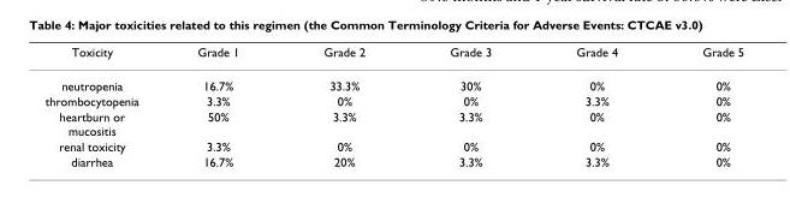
<table><thead><tr><td>Toxicity</td><td>Grade 1</td><td>Grade 2</td><td>Grade 3</td><td>Grade 4</td><td>Grade 5</td></tr></thead><tbody><tr><td>neutropenia</td><td>16.7%</td><td>33.3%</td><td>30%</td><td>0%</td><td>0%</td></tr><tr><td>thrombocytopenia</td><td>3.3%</td><td>0%</td><td>0%</td><td>3.3%</td><td>0%</td></tr><tr><td>heartburn or mucositis</td><td>50%</td><td>3.3%</td><td>3.3%</td><td>0%</td><td>0%</td></tr><tr><td>renal toxicity</td><td>3.3%</td><td>0%</td><td>0%</td><td>0%</td><td>0%</td></tr><tr><td>diarrhea</td><td>16.7%</td><td>20%</td><td>3.3%</td><td>3.3%</td><td>0%</td></tr></tbody></table>